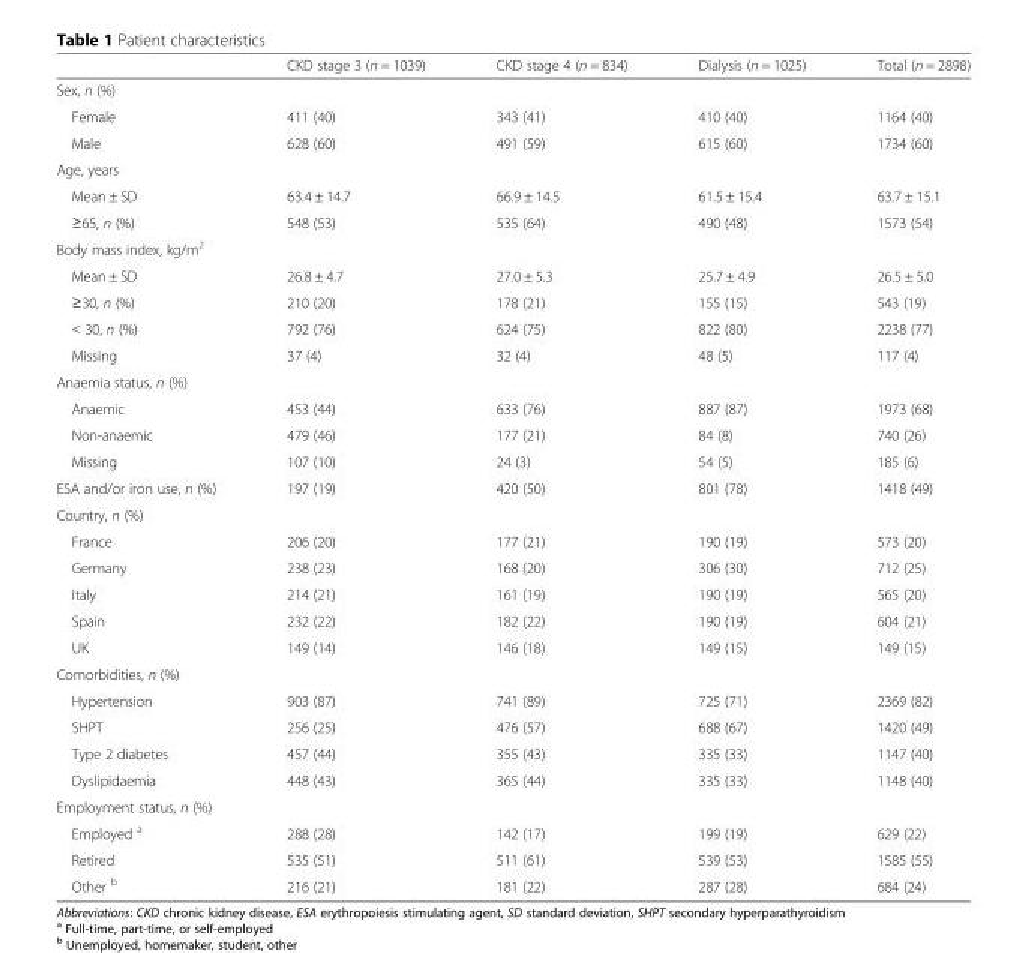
<table><thead><tr><td></td><td>CKD stage 3 (n = 1039)</td><td>CKD stage 4 (n = 834)</td><td>Dialysis (n = 1025)</td><td>Total (n = 2898)</td></tr></thead><tbody><tr><td colspan="5">Sex, n (%)</td></tr><tr><td>Female</td><td>411 (40)</td><td>343 (41)</td><td>410 (40)</td><td>1164 (40)</td></tr><tr><td>Male</td><td>628 (60)</td><td>491 (59)</td><td>615 (60)</td><td>1734 (60)</td></tr><tr><td colspan="5">Age, years</td></tr><tr><td>Mean ± SD</td><td>63.4 ± 14.7</td><td>66.9 ± 14.5</td><td>61.5 ± 15.4</td><td>63.7 ± 15.1</td></tr><tr><td>≥65, n (%)</td><td>548 (53)</td><td>535 (64)</td><td>490 (48)</td><td>1573 (54)</td></tr><tr><td colspan="5">Body mass index, kg/m<sup>2</sup></td></tr><tr><td>Mean ± SD</td><td>26.8 ± 4.7</td><td>27.0 ± 5.3</td><td>25.7 ± 4.9</td><td>26.5 ± 5.0</td></tr><tr><td>≥30, n (%)</td><td>210 (20)</td><td>178 (21)</td><td>155 (15)</td><td>543 (19)</td></tr><tr><td>˂ 30, n (%)</td><td>792 (76)</td><td>624 (75)</td><td>822 (80)</td><td>2238 (77)</td></tr><tr><td>Missing</td><td>37 (4)</td><td>32 (4)</td><td>48 (5)</td><td>117 (4)</td></tr><tr><td colspan="5">Anaemia status, n (%)</td></tr><tr><td>Anaemic</td><td>453 (44)</td><td>633 (76)</td><td>887 (87)</td><td>1973 (68)</td></tr><tr><td>Non-anaemic</td><td>479 (46)</td><td>177 (21)</td><td>84 (8)</td><td>740 (26)</td></tr><tr><td>Missing</td><td>107 (10)</td><td>24 (3)</td><td>54 (5)</td><td>185 (6)</td></tr><tr><td>ESA and/or iron use, n (%)</td><td>197 (19)</td><td>420 (50)</td><td>801 (78)</td><td>1418 (49)</td></tr><tr><td colspan="5">Country, n (%)</td></tr><tr><td>France</td><td>206 (20)</td><td>177 (21)</td><td>190 (19)</td><td>573 (20)</td></tr><tr><td>Germany</td><td>238 (23)</td><td>168 (20)</td><td>306 (30)</td><td>712 (25)</td></tr><tr><td>Italy</td><td>214 (21)</td><td>161 (19)</td><td>190 (19)</td><td>565 (20)</td></tr><tr><td>Spain</td><td>232 (22)</td><td>182 (22)</td><td>190 (19)</td><td>604 (21)</td></tr><tr><td>UK</td><td>149 (14)</td><td>146 (18)</td><td>149 (15)</td><td>149 (15)</td></tr><tr><td colspan="5">Comorbidities, n (%)</td></tr><tr><td>Hypertension</td><td>903 (87)</td><td>741 (89)</td><td>725 (71)</td><td>2369 (82)</td></tr><tr><td>SHPT</td><td>256 (25)</td><td>476 (57)</td><td>688 (67)</td><td>1420 (49)</td></tr><tr><td>Type 2 diabetes</td><td>457 (44)</td><td>355 (43)</td><td>335 (33)</td><td>1147 (40)</td></tr><tr><td>Dyslipidaemia</td><td>448 (43)</td><td>365 (44)</td><td>335 (33)</td><td>1148 (40)</td></tr><tr><td colspan="5">Employment status, n (%)</td></tr><tr><td>Employed <sup>a</sup></td><td>288 (28)</td><td>142 (17)</td><td>199 (19)</td><td>629 (22)</td></tr><tr><td>Retired</td><td>535 (51)</td><td>511 (61)</td><td>539 (53)</td><td>1585 (55)</td></tr><tr><td>Other <sup>b</sup></td><td>216 (21)</td><td>181 (22)</td><td>287 (28)</td><td>684 (24)</td></tr></tbody></table>